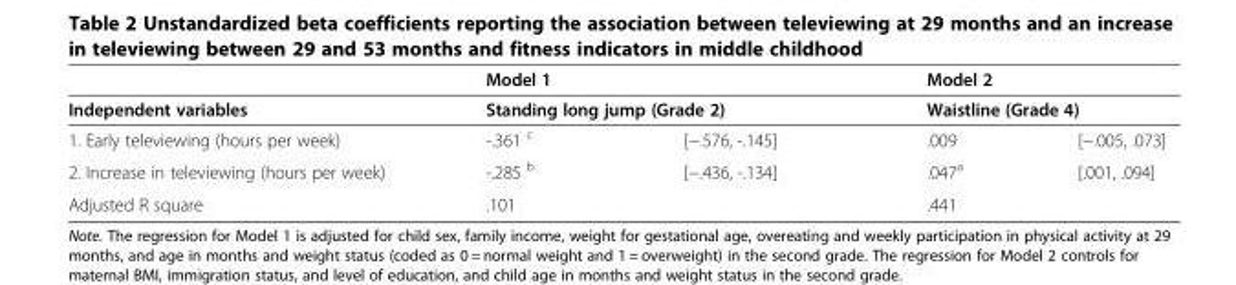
<table><thead><tr><td rowspan="3">Independent variables 1. Early televiewing (hours per week)</td><td rowspan="2" colspan="2">Model 1 Standing long jump (Grade 2)</td><td rowspan="2" colspan="2">Model 2 Waistline (Grade 4)</td></tr><tr></tr><tr><td>-.361 <sup>c</sup></td><td>[−.576, -.145]</td><td>.009</td><td>[−.005, .073]</td></tr></thead><tbody><tr><td>2. Increase in televiewing (hours per week)</td><td>-.285 <sup>b</sup></td><td>[−.436, -.134]</td><td>.047<sup>a</sup></td><td>[.001, .094]</td></tr><tr><td>Adjusted R square</td><td>.101</td><td></td><td>.441</td><td></td></tr></tbody></table>